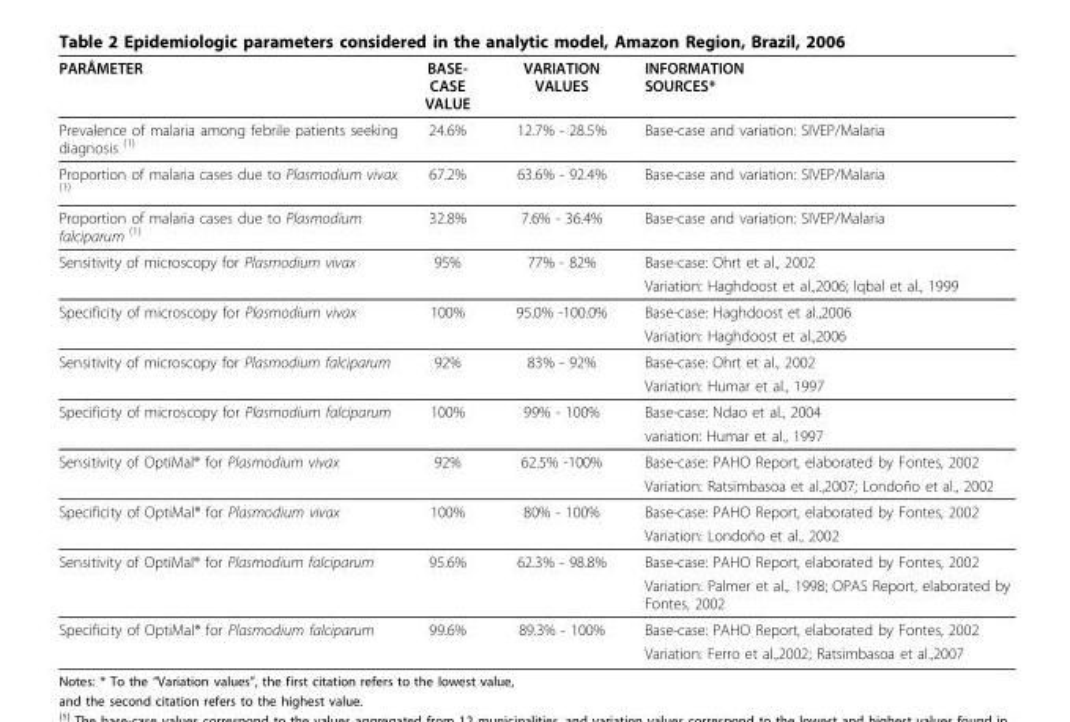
<table><thead><tr><td>PARÂMETER</td><td>BASE- CASE VALUE</td><td>VARIATION VALUES</td><td>INFORMATION SOURCES*</td></tr></thead><tbody><tr><td>Prevalence of malaria among febrile patients seeking diagnosis <sup>(1)</sup></td><td>24.6%</td><td>12.7% - 28.5%</td><td>Base-case and variation: SIVEP/Malaria</td></tr><tr><td>Proportion of malaria cases due to Plasmodium vivax <sup>(1)</sup></td><td>67.2%</td><td>63.6% - 92.4%</td><td>Base-case and variation: SIVEP/Malaria</td></tr><tr><td>Proportion of malaria cases due to Plasmodium falciparum <sup>(1)</sup></td><td>32.8%</td><td>7.6% - 36.4%</td><td>Base-case and variation: SIVEP/Malaria</td></tr><tr><td rowspan="2">Sensitivity of microscopy for Plasmodium vivax</td><td>95%</td><td>77% - 82%</td><td>Base-case: Ohrt et al., 2002</td></tr><tr><td></td><td></td><td>Variation: Haghdoost et al.,2006; Iqbal et al., 1999</td></tr><tr><td rowspan="2">Specificity of microscopy for Plasmodium vivax</td><td>100%</td><td>95.0% -100.0%</td><td>Base-case: Haghdoost et al.,2006</td></tr><tr><td></td><td></td><td>Variation: Haghdoost et al.,2006</td></tr><tr><td rowspan="2">Sensitivity of microscopy for Plasmodium falciparum</td><td>92%</td><td>83% - 92%</td><td>Base-case: Ohrt et al., 2002</td></tr><tr><td></td><td></td><td>Variation: Humar et al., 1997</td></tr><tr><td rowspan="2">Specificity of microscopy for Plasmodium falciparum</td><td>100%</td><td>99% - 100%</td><td>Base-case: Ndao et al., 2004</td></tr><tr><td></td><td></td><td>variation: Humar et al., 1997</td></tr><tr><td rowspan="2">Sensitivity of OptiMal<sup>®</sup> for Plasmodium vivax</td><td>92%</td><td>62.5% -100%</td><td>Base-case: PAHO Report, elaborated by Fontes, 2002</td></tr><tr><td></td><td></td><td>Variation: Ratsimbasoa et al.,2007; Londoño et al., 2002</td></tr><tr><td rowspan="2">Specificity of OptiMal<sup>®</sup> for Plasmodium vivax</td><td>100%</td><td>80% - 100%</td><td>Base-case: PAHO Report, elaborated by Fontes, 2002</td></tr><tr><td></td><td></td><td>Variation: Londoño et al., 2002</td></tr><tr><td rowspan="2">Sensitivity of OptiMal<sup>®</sup> for Plasmodium falciparum</td><td>95.6%</td><td>62.3% - 98.8%</td><td>Base-case: PAHO Report, elaborated by Fontes, 2002</td></tr><tr><td></td><td></td><td>Variation: Palmer et al., 1998; OPAS Report, elaborated by Fontes, 2002</td></tr><tr><td rowspan="2">Specificity of OptiMal<sup>®</sup> for Plasmodium falciparum</td><td>99.6%</td><td>89.3% - 100%</td><td>Base-case: PAHO Report, elaborated by Fontes, 2002</td></tr><tr><td></td><td></td><td>Variation: Ferro et al.,2002; Ratsimbasoa et al.,2007</td></tr></tbody></table>